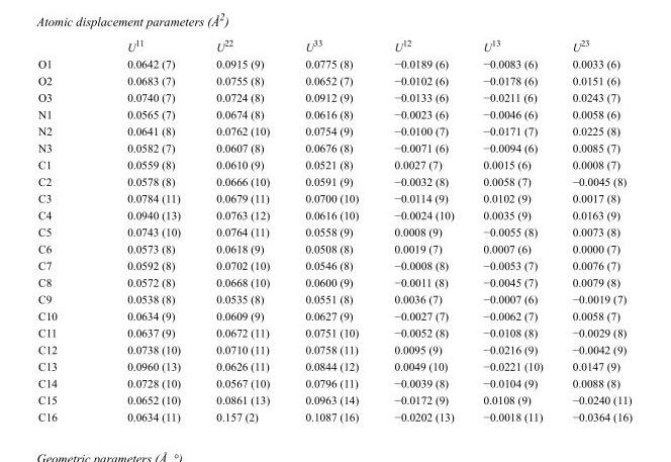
<table><thead><tr><td></td><td>U<sup>11</sup></td><td>U<sup>22</sup></td><td>U<sup>33</sup></td><td>U<sup>12</sup></td><td>U<sup>13</sup></td><td>U<sup>23</sup></td></tr></thead><tbody><tr><td>O1</td><td>0.0642 (7)</td><td>0.0915 (9)</td><td>0.0775 (8)</td><td>−0.0189 (6)</td><td>−0.0083 (6)</td><td>0.0033 (6)</td></tr><tr><td>O2</td><td>0.0683 (7)</td><td>0.0755 (8)</td><td>0.0652 (7)</td><td>−0.0102 (6)</td><td>−0.0178 (6)</td><td>0.0151 (6)</td></tr><tr><td>O3</td><td>0.0740 (7)</td><td>0.0724 (8)</td><td>0.0912 (9)</td><td>−0.0133 (6)</td><td>−0.0211 (6)</td><td>0.0243 (7)</td></tr><tr><td>N1</td><td>0.0565 (7)</td><td>0.0674 (8)</td><td>0.0616 (8)</td><td>−0.0023 (6)</td><td>−0.0046 (6)</td><td>0.0058 (6)</td></tr><tr><td>N2</td><td>0.0641 (8)</td><td>0.0762 (10)</td><td>0.0754 (9)</td><td>−0.0100 (7)</td><td>−0.0171 (7)</td><td>0.0225 (8)</td></tr><tr><td>N3</td><td>0.0582 (7)</td><td>0.0607 (8)</td><td>0.0676 (8)</td><td>−0.0071 (6)</td><td>−0.0094 (6)</td><td>0.0085 (7)</td></tr><tr><td>C1</td><td>0.0559 (8)</td><td>0.0610 (9)</td><td>0.0521 (8)</td><td>0.0027 (7)</td><td>0.0015 (6)</td><td>0.0008 (7)</td></tr><tr><td>C2</td><td>0.0578 (8)</td><td>0.0666 (10)</td><td>0.0591 (9)</td><td>−0.0032 (8)</td><td>0.0058 (7)</td><td>−0.0045 (8)</td></tr><tr><td>C3</td><td>0.0784 (11)</td><td>0.0679 (11)</td><td>0.0700 (10)</td><td>−0.0114 (9)</td><td>0.0102 (9)</td><td>0.0017 (8)</td></tr><tr><td>C4</td><td>0.0940 (13)</td><td>0.0763 (12)</td><td>0.0616 (10)</td><td>−0.0024 (10)</td><td>0.0035 (9)</td><td>0.0163 (9)</td></tr><tr><td>C5</td><td>0.0743 (10)</td><td>0.0764 (11)</td><td>0.0558 (9)</td><td>0.0008 (9)</td><td>−0.0055 (8)</td><td>0.0073 (8)</td></tr><tr><td>C6</td><td>0.0573 (8)</td><td>0.0618 (9)</td><td>0.0508 (8)</td><td>0.0019 (7)</td><td>0.0007 (6)</td><td>0.0000 (7)</td></tr><tr><td>C7</td><td>0.0592 (8)</td><td>0.0702 (10)</td><td>0.0546 (8)</td><td>−0.0008 (8)</td><td>−0.0053 (7)</td><td>0.0076 (7)</td></tr><tr><td>C8</td><td>0.0572 (8)</td><td>0.0668 (10)</td><td>0.0600 (9)</td><td>−0.0011 (8)</td><td>−0.0045 (7)</td><td>0.0079 (8)</td></tr><tr><td>C9</td><td>0.0538 (8)</td><td>0.0535 (8)</td><td>0.0551 (8)</td><td>0.0036 (7)</td><td>−0.0007 (6)</td><td>−0.0019 (7)</td></tr><tr><td>C10</td><td>0.0634 (9)</td><td>0.0609 (9)</td><td>0.0627 (9)</td><td>−0.0027 (7)</td><td>−0.0062 (7)</td><td>0.0058 (7)</td></tr><tr><td>C11</td><td>0.0637 (9)</td><td>0.0672 (11)</td><td>0.0751 (10)</td><td>−0.0052 (8)</td><td>−0.0108 (8)</td><td>−0.0029 (8)</td></tr><tr><td>C12</td><td>0.0738 (10)</td><td>0.0710 (11)</td><td>0.0758 (11)</td><td>0.0095 (9)</td><td>−0.0216 (9)</td><td>−0.0042 (9)</td></tr><tr><td>C13</td><td>0.0960 (13)</td><td>0.0626 (11)</td><td>0.0844 (12)</td><td>0.0049 (10)</td><td>−0.0221 (10)</td><td>0.0147 (9)</td></tr><tr><td>C14</td><td>0.0728 (10)</td><td>0.0567 (10)</td><td>0.0796 (11)</td><td>−0.0039 (8)</td><td>−0.0104 (9)</td><td>0.0088 (8)</td></tr><tr><td>C15</td><td>0.0652 (10)</td><td>0.0861 (13)</td><td>0.0963 (14)</td><td>−0.0172 (9)</td><td>0.0108 (9)</td><td>−0.0240 (11)</td></tr><tr><td>C16</td><td>0.0634 (11)</td><td>0.157 (2)</td><td>0.1087 (16)</td><td>−0.0202 (13)</td><td>−0.0018 (11)</td><td>−0.0364 (16)</td></tr></tbody></table>